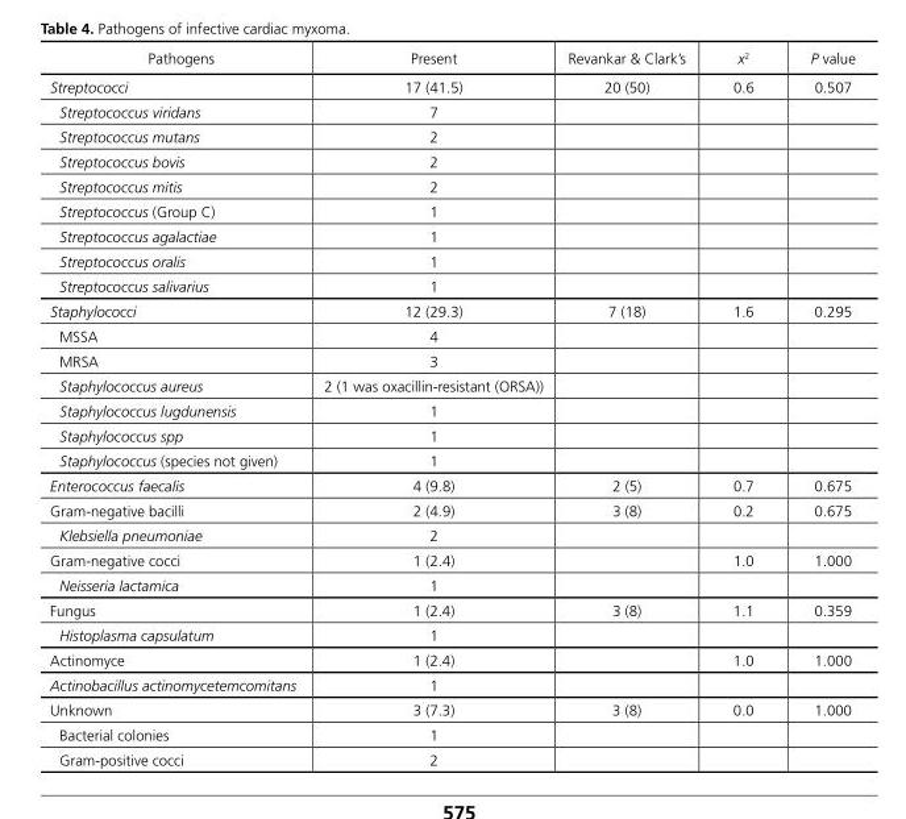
<table><thead><tr><td>Pathogens</td><td>Present</td><td>Revankar &amp; Clark’s</td><td>x<sup>2</sup></td><td>P value</td></tr></thead><tbody><tr><td>Streptococci</td><td>17 (41.5)</td><td>20 (50)</td><td>0.6</td><td>0.507</td></tr><tr><td>Streptococcus viridans</td><td>7</td><td></td><td></td><td></td></tr><tr><td>Streptococcus mutans</td><td>2</td><td></td><td></td><td></td></tr><tr><td>Streptococcus bovis</td><td>2</td><td></td><td></td><td></td></tr><tr><td>Streptococcus mitis</td><td>2</td><td></td><td></td><td></td></tr><tr><td>Streptococcus (Group C)</td><td>1</td><td></td><td></td><td></td></tr><tr><td>Streptococcus agalactiae</td><td>1</td><td></td><td></td><td></td></tr><tr><td>Streptococcus oralis</td><td>1</td><td></td><td></td><td></td></tr><tr><td>Streptococcus salivarius</td><td>1</td><td></td><td></td><td></td></tr><tr><td>Staphylococci</td><td>12 (29.3)</td><td>7 (18)</td><td>1.6</td><td>0.295</td></tr><tr><td>MSSA</td><td>4</td><td></td><td></td><td></td></tr><tr><td>MRSA</td><td>3</td><td></td><td></td><td></td></tr><tr><td>Staphylococcus aureus</td><td>2 (1 was oxacillin-resistant (ORSA))</td><td></td><td></td><td></td></tr><tr><td>Staphylococcus lugdunensis</td><td>1</td><td></td><td></td><td></td></tr><tr><td>Staphylococcus spp</td><td>1</td><td></td><td></td><td></td></tr><tr><td>Staphylococcus (species not given)</td><td>1</td><td></td><td></td><td></td></tr><tr><td>Enterococcus faecalis</td><td>4 (9.8)</td><td>2 (5)</td><td>0.7</td><td>0.675</td></tr><tr><td>Gram-negative bacilli</td><td>2 (4.9)</td><td>3 (8)</td><td>0.2</td><td>0.675</td></tr><tr><td>Klebsiella pneumoniae</td><td>2</td><td></td><td></td><td></td></tr><tr><td>Gram-negative cocci</td><td>1 (2.4)</td><td></td><td>1.0</td><td>1.000</td></tr><tr><td>Neisseria lactamica</td><td>1</td><td></td><td></td><td></td></tr><tr><td>Fungus</td><td>1 (2.4)</td><td>3 (8)</td><td>1.1</td><td>0.359</td></tr><tr><td>Histoplasma capsulatum</td><td>1</td><td></td><td></td><td></td></tr><tr><td>Actinomyce</td><td>1 (2.4)</td><td></td><td>1.0</td><td>1.000</td></tr><tr><td>Actinobacillus actinomycetemcomitans</td><td>1</td><td></td><td></td><td></td></tr><tr><td>Unknown</td><td>3 (7.3)</td><td>3 (8)</td><td>0.0</td><td>1.000</td></tr><tr><td>Bacterial colonies</td><td>1</td><td></td><td></td><td></td></tr><tr><td>Gram-positive cocci</td><td>2</td><td></td><td></td><td></td></tr></tbody></table>